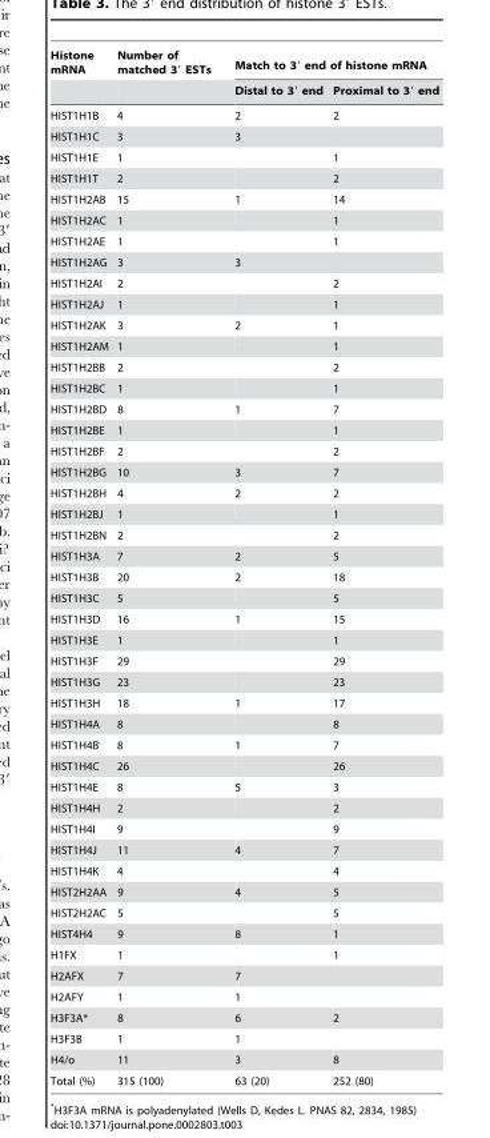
<table><thead><tr><td rowspan="2">Histone mRNA</td><td rowspan="2">Number of matched 3′ ESTs</td><td colspan="2">Match to 3′ end of histone mRNA</td></tr><tr><td>Distal to 3′ end</td><td>Proximal to 3′ end</td></tr></thead><tbody><tr><td>HIST1H1B</td><td>4</td><td>2</td><td>2</td></tr><tr><td>HIST1H1C</td><td>3</td><td>3</td><td></td></tr><tr><td>HIST1H1E</td><td>1</td><td></td><td>1</td></tr><tr><td>HIST1H1T</td><td>2</td><td></td><td>2</td></tr><tr><td>HIST1H2AB</td><td>15</td><td>1</td><td>14</td></tr><tr><td>HIST1H2AC</td><td>1</td><td></td><td>1</td></tr><tr><td>HIST1H2AE</td><td>1</td><td></td><td>1</td></tr><tr><td>HIST1H2AG</td><td>3</td><td>3</td><td></td></tr><tr><td>HIST1H2AI</td><td>2</td><td></td><td>2</td></tr><tr><td>HIST1H2AJ</td><td>1</td><td></td><td>1</td></tr><tr><td>HIST1H2AK</td><td>3</td><td>2</td><td>1</td></tr><tr><td>HIST1H2AM</td><td>1</td><td></td><td>1</td></tr><tr><td>HIST1H2BB</td><td>2</td><td></td><td>2</td></tr><tr><td>HIST1H2BC</td><td>1</td><td></td><td>1</td></tr><tr><td>HIST1H2BD</td><td>8</td><td>1</td><td>7</td></tr><tr><td>HIST1H2BE</td><td>1</td><td></td><td>1</td></tr><tr><td>HIST1H2BF</td><td>2</td><td></td><td>2</td></tr><tr><td>HIST1H2BG</td><td>10</td><td>3</td><td>7</td></tr><tr><td>HIST1H2BH</td><td>4</td><td>2</td><td>2</td></tr><tr><td>HIST1H2BJ</td><td>1</td><td></td><td>1</td></tr><tr><td>HIST1H2BN</td><td>2</td><td></td><td>2</td></tr><tr><td>HIST1H3A</td><td>7</td><td>2</td><td>5</td></tr><tr><td>HIST1H3B</td><td>20</td><td>2</td><td>18</td></tr><tr><td>HIST1H3C</td><td>5</td><td></td><td>5</td></tr><tr><td>HIST1H3D</td><td>16</td><td>1</td><td>15</td></tr><tr><td>HIST1H3E</td><td>1</td><td></td><td>1</td></tr><tr><td>HIST1H3F</td><td>29</td><td></td><td>29</td></tr><tr><td>HIST1H3G</td><td>23</td><td></td><td>23</td></tr><tr><td>HIST1H3H</td><td>18</td><td>1</td><td>17</td></tr><tr><td>HIST1H4A</td><td>8</td><td></td><td>8</td></tr><tr><td>HIST1H4B</td><td>8</td><td>1</td><td>7</td></tr><tr><td>HIST1H4C</td><td>26</td><td></td><td>26</td></tr><tr><td>HIST1H4E</td><td>8</td><td>5</td><td>3</td></tr><tr><td>HIST1H4H</td><td>2</td><td></td><td>2</td></tr><tr><td>HIST1H4I</td><td>9</td><td></td><td>9</td></tr><tr><td>HIST1H4J</td><td>11</td><td>4</td><td>7</td></tr><tr><td>HIST1H4K</td><td>4</td><td></td><td>4</td></tr><tr><td>HIST2H2AA</td><td>9</td><td>4</td><td>5</td></tr><tr><td>HIST2H2AC</td><td>5</td><td></td><td>5</td></tr><tr><td>HIST4H4</td><td>9</td><td>8</td><td>1</td></tr><tr><td>H1FX</td><td>1</td><td></td><td>1</td></tr><tr><td>H2AFX</td><td>7</td><td>7</td><td></td></tr><tr><td>H2AFY</td><td>1</td><td>1</td><td></td></tr><tr><td>H3F3A*</td><td>8</td><td>6</td><td>2</td></tr><tr><td>H3F3B</td><td>1</td><td>1</td><td></td></tr><tr><td>H4/o</td><td>11</td><td>3</td><td>8</td></tr><tr><td>Total (%)</td><td>315 (100)</td><td>63 (20)</td><td>252 (80)</td></tr></tbody></table>